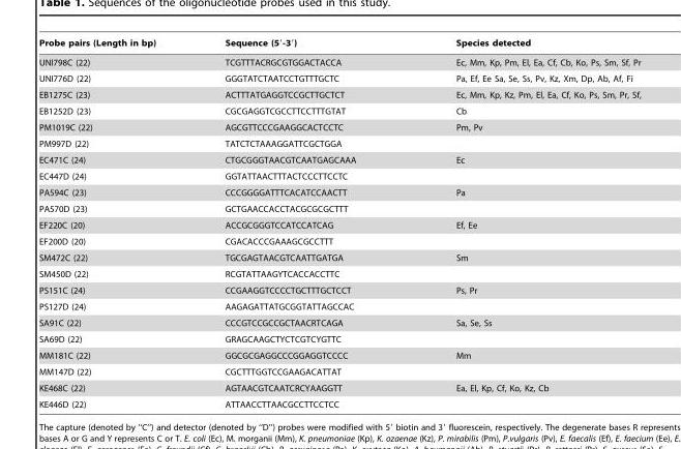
<table><thead><tr><td>Probe pairs (Length in bp)</td><td>Sequence (5′-3′)</td><td>Species detected</td></tr></thead><tbody><tr><td>UNI798C (22)</td><td>TCGTTTACRGCGTGGACTACCA</td><td>Ec, Mm, Kp, Pm, El, Ea, Cf, Cb, Ko, Ps, Sm, Sf, Pr</td></tr><tr><td>UNI776D (22)</td><td>GGGTATCTAATCCTGTTTGCTC</td><td>Pa, Ef, Ee Sa, Se, Ss, Pv, Kz, Xm, Dp, Ab, Af, Fi</td></tr><tr><td>EB1275C (23)</td><td>ACTTTATGAGGTCCGCTTGCTCT</td><td>Ec, Mm, Kp, Kz, Pm, El, Ea, Cf, Ko, Ps, Sm, Pr, Sf,</td></tr><tr><td>EB1252D (23)</td><td>CGCGAGGTCGCCTTCCTTTGTAT</td><td>Cb</td></tr><tr><td>PM1019C (22)</td><td>AGCGTTCCCGAAGGCACTCCTC</td><td>Pm, Pv</td></tr><tr><td>PM997D (22)</td><td>TATCTCTAAAGGATTCGCTGGA</td><td></td></tr><tr><td>EC471C (24)</td><td>CTGCGGGTAACGTCAATGAGCAAA</td><td>Ec</td></tr><tr><td>EC447D (24)</td><td>GGTATTAACTTTACTCCCTTCCTC</td><td></td></tr><tr><td>PA594C (23)</td><td>CCCGGGGATTTCACATCCAACTT</td><td>Pa</td></tr><tr><td>PA570D (23)</td><td>GCTGAACCACCTACGCGCGCTTT</td><td></td></tr><tr><td>EF220C (20)</td><td>ACCGCGGGTCCATCCATCAG</td><td>Ef, Ee</td></tr><tr><td>EF200D (20)</td><td>CGACACCCGAAAGCGCCTTT</td><td></td></tr><tr><td>SM472C (22)</td><td>TGCGAGTAACGTCAATTGATGA</td><td>Sm</td></tr><tr><td>SM450D (22)</td><td>RCGTATTAAGYTCACCACCTTC</td><td></td></tr><tr><td>PS151C (24)</td><td>CCGAAGGTCCCCTGCTTTGCTCCT</td><td>Ps, Pr</td></tr><tr><td>PS127D (24)</td><td>AAGAGATTATGCGGTATTAGCCAC</td><td></td></tr><tr><td>SA91C (22)</td><td>CCCGTCCGCCGCTAACRTCAGA</td><td>Sa, Se, Ss</td></tr><tr><td>SA69D (22)</td><td>GRAGCAAGCTYCTCGTCYGTTC</td><td></td></tr><tr><td>MM181C (22)</td><td>GGCGCGAGGCCCGGAGGTCCCC</td><td>Mm</td></tr><tr><td>MM147D (22)</td><td>CGCTTTGGTCCGAAGACATTAT</td><td></td></tr><tr><td>KE468C (22)</td><td>AGTAACGTCAATCRCYAAGGTT</td><td>Ea, El, Kp, Cf, Ko, Kz, Cb</td></tr><tr><td>KE446D (22)</td><td>ATTAACCTTAACGCCTTCCTCC</td><td></td></tr></tbody></table>